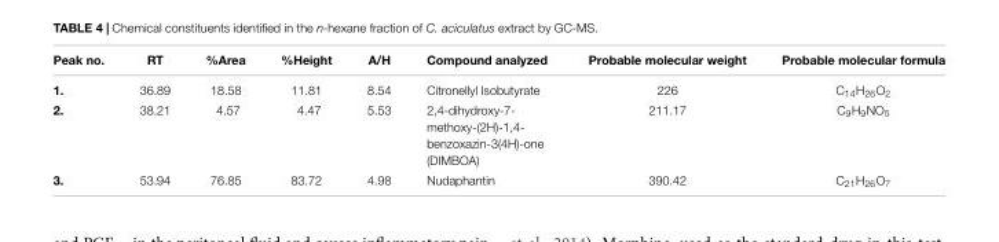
<table><thead><tr><td>Peak no.</td><td>RT</td><td>%Area</td><td>%Height</td><td>A/H</td><td>Compound analyzed</td><td>Probable molecular weight</td><td>Probable molecular formula</td></tr></thead><tbody><tr><td>1.</td><td>36.89</td><td>18.58</td><td>11.81</td><td>8.54</td><td>Citronellyl Isobutyrate</td><td>226</td><td>C<sub>14</sub>H<sub>26</sub>O<sub>2</sub></td></tr><tr><td>2.</td><td>38.21</td><td>4.57</td><td>4.47</td><td>5.53</td><td>2,4-dihydroxy-7- methoxy-(2H)-1,4- benzoxazin-3(4H)-one (DIMBOA)</td><td>211.17</td><td>C<sub>9</sub>H<sub>9</sub>NO<sub>5</sub></td></tr><tr><td>3.</td><td>53.94</td><td>76.85</td><td>83.72</td><td>4.98</td><td>Nudaphantin</td><td>390.42</td><td>C<sub>21</sub>H<sub>26</sub>O<sub>7</sub></td></tr></tbody></table>